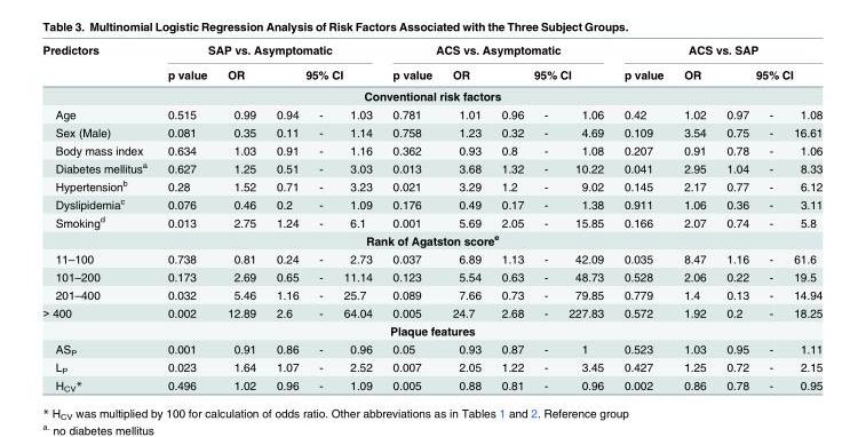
<table><thead><tr><td rowspan="2">Predictors</td><td colspan="5">SAP vs. Asymptomatic</td><td colspan="5">ACS vs. Asymptomatic</td><td colspan="5">ACS vs. SAP</td></tr><tr><td>p value</td><td>OR</td><td colspan="3">95% CI</td><td>p value</td><td>OR</td><td colspan="3">95% CI</td><td>p value</td><td>OR</td><td colspan="3">95% CI</td></tr><tr><td colspan="16">Conventional risk factors</td></tr><tr><td>Age</td><td>0.515</td><td>0.99</td><td>0.94</td><td>-</td><td>1.03</td><td>0.781</td><td>1.01</td><td>0.96</td><td>-</td><td>1.06</td><td>0.42</td><td>1.02</td><td>0.97</td><td>-</td><td>1.08</td></tr></thead><tbody><tr><td>Sex (Male)</td><td>0.081</td><td>0.35</td><td>0.11</td><td>-</td><td>1.14</td><td>0.758</td><td>1.23</td><td>0.32</td><td>-</td><td>4.69</td><td>0.109</td><td>3.54</td><td>0.75</td><td>-</td><td>16.61</td></tr><tr><td>Body mass index</td><td>0.634</td><td>1.03</td><td>0.91</td><td>-</td><td>1.16</td><td>0.362</td><td>0.93</td><td>0.8</td><td>-</td><td>1.08</td><td>0.207</td><td>0.91</td><td>0.78</td><td>-</td><td>1.06</td></tr><tr><td>Diabetes mellitus<sup>a</sup></td><td>0.627</td><td>1.25</td><td>0.51</td><td>-</td><td>3.03</td><td>0.013</td><td>3.68</td><td>1.32</td><td>-</td><td>10.22</td><td>0.041</td><td>2.95</td><td>1.04</td><td>-</td><td>8.33</td></tr><tr><td>Hypertension<sup>b</sup></td><td>0.28</td><td>1.52</td><td>0.71</td><td>-</td><td>3.23</td><td>0.021</td><td>3.29</td><td>1.2</td><td>-</td><td>9.02</td><td>0.145</td><td>2.17</td><td>0.77</td><td>-</td><td>6.12</td></tr><tr><td>Dyslipidemia<sup>c</sup></td><td>0.076</td><td>0.46</td><td>0.2</td><td>-</td><td>1.09</td><td>0.176</td><td>0.49</td><td>0.17</td><td>-</td><td>1.38</td><td>0.911</td><td>1.06</td><td>0.36</td><td>-</td><td>3.11</td></tr><tr><td>Smoking<sup>d</sup></td><td>0.013</td><td>2.75</td><td>1.24</td><td>-</td><td>6.1</td><td>0.001</td><td>5.69</td><td>2.05</td><td>-</td><td>15.85</td><td>0.166</td><td>2.07</td><td>0.74</td><td>-</td><td>5.8</td></tr><tr><td colspan="16">Rank of Agatston score<sup>e</sup></td></tr><tr><td>11–100</td><td>0.738</td><td>0.81</td><td>0.24</td><td>-</td><td>2.73</td><td>0.037</td><td>6.89</td><td>1.13</td><td>-</td><td>42.09</td><td>0.035</td><td>8.47</td><td>1.16</td><td>-</td><td>61.6</td></tr><tr><td>101–200</td><td>0.173</td><td>2.69</td><td>0.65</td><td>-</td><td>11.14</td><td>0.123</td><td>5.54</td><td>0.63</td><td>-</td><td>48.73</td><td>0.528</td><td>2.06</td><td>0.22</td><td>-</td><td>19.5</td></tr><tr><td>201–400</td><td>0.032</td><td>5.46</td><td>1.16</td><td>-</td><td>25.7</td><td>0.089</td><td>7.66</td><td>0.73</td><td>-</td><td>79.85</td><td>0.779</td><td>1.4</td><td>0.13</td><td>-</td><td>14.94</td></tr><tr><td>&gt; 400</td><td>0.002</td><td>12.89</td><td>2.6</td><td>-</td><td>64.04</td><td>0.005</td><td>24.7</td><td>2.68</td><td>-</td><td>227.83</td><td>0.572</td><td>1.92</td><td>0.2</td><td>-</td><td>18.25</td></tr><tr><td colspan="16">Plaque features</td></tr><tr><td>AS<sub>P</sub></td><td>0.001</td><td>0.91</td><td>0.86</td><td>-</td><td>0.96</td><td>0.05</td><td>0.93</td><td>0.87</td><td>-</td><td>1</td><td>0.523</td><td>1.03</td><td>0.95</td><td>-</td><td>1.11</td></tr><tr><td>L<sub>P</sub></td><td>0.023</td><td>1.64</td><td>1.07</td><td>-</td><td>2.52</td><td>0.007</td><td>2.05</td><td>1.22</td><td>-</td><td>3.45</td><td>0.427</td><td>1.25</td><td>0.72</td><td>-</td><td>2.15</td></tr><tr><td>H<sub>CV</sub>*</td><td>0.496</td><td>1.02</td><td>0.96</td><td>-</td><td>1.09</td><td>0.005</td><td>0.88</td><td>0.81</td><td>-</td><td>0.96</td><td>0.002</td><td>0.86</td><td>0.78</td><td>-</td><td>0.95</td></tr></tbody></table>